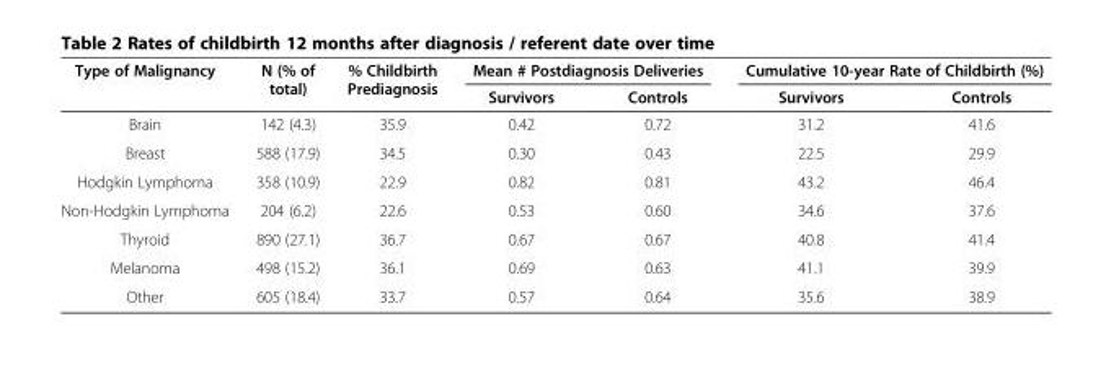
<table><thead><tr><td rowspan="2">Type of Malignancy</td><td rowspan="2">N (% of total)</td><td rowspan="2">% Childbirth Prediagnosis</td><td colspan="2">Mean # Postdiagnosis Deliveries</td><td colspan="2">Cumulative 10-year Rate of Childbirth (%)</td></tr><tr><td>Survivors</td><td>Controls</td><td>Survivors</td><td>Controls</td></tr></thead><tbody><tr><td>Brain</td><td>142 (4.3)</td><td>35.9</td><td>0.42</td><td>0.72</td><td>31.2</td><td>41.6</td></tr><tr><td>Breast</td><td>588 (17.9)</td><td>34.5</td><td>0.30</td><td>0.43</td><td>22.5</td><td>29.9</td></tr><tr><td>Hodgkin Lymphoma</td><td>358 (10.9)</td><td>22.9</td><td>0.82</td><td>0.81</td><td>43.2</td><td>46.4</td></tr><tr><td>Non-Hodgkin Lymphoma</td><td>204 (6.2)</td><td>22.6</td><td>0.53</td><td>0.60</td><td>34.6</td><td>37.6</td></tr><tr><td>Thyroid</td><td>890 (27.1)</td><td>36.7</td><td>0.67</td><td>0.67</td><td>40.8</td><td>41.4</td></tr><tr><td>Melanoma</td><td>498 (15.2)</td><td>36.1</td><td>0.69</td><td>0.63</td><td>41.1</td><td>39.9</td></tr><tr><td>Other</td><td>605 (18.4)</td><td>33.7</td><td>0.57</td><td>0.64</td><td>35.6</td><td>38.9</td></tr></tbody></table>